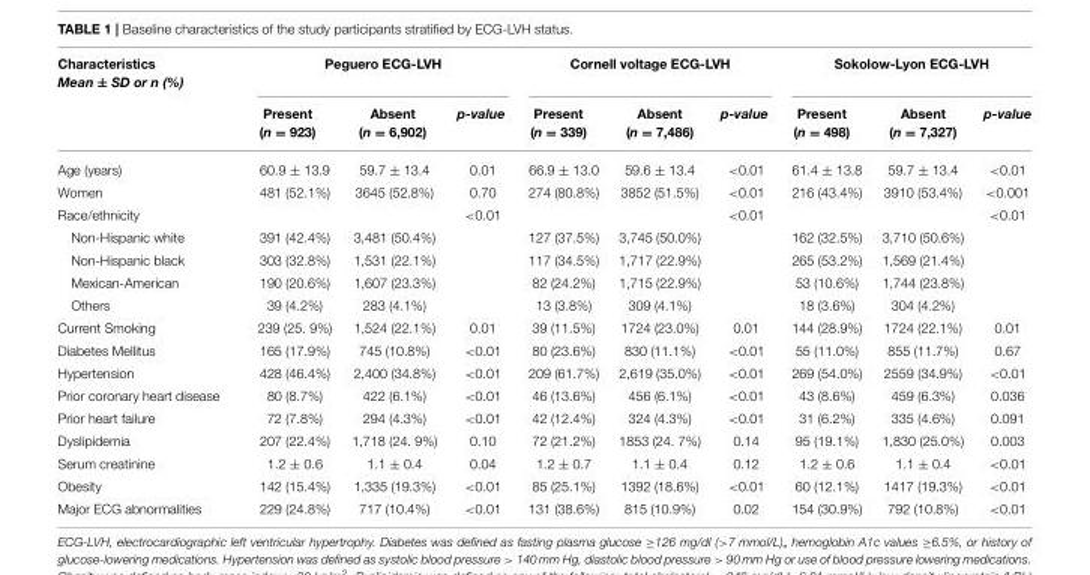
<table><thead><tr><td rowspan="2">Characteristics Mean ± SD or n (%)</td><td colspan="3">Peguero ECG-LVH</td><td colspan="3">Cornell voltage ECG-LVH</td><td colspan="3">Sokolow-Lyon ECG-LVH</td></tr><tr><td>Present (n = 923)</td><td>Absent (n = 6,902)</td><td>p-value</td><td>Present (n = 339)</td><td>Absent (n = 7,486)</td><td>p-value</td><td>Present (n = 498)</td><td>Absent (n = 7,327)</td><td>p-value</td></tr></thead><tbody><tr><td>Age (years)</td><td>60.9 ± 13.9</td><td>59.7 ± 13.4</td><td>0.01</td><td>66.9 ± 13.0</td><td>59.6 ± 13.4</td><td>&lt;0.01</td><td>61.4 ± 13.8</td><td>59.7 ± 13.4</td><td>&lt;0.01</td></tr><tr><td>Women</td><td>481 (52.1%)</td><td>3645 (52.8%)</td><td>0.70</td><td>274 (80.8%)</td><td>3852 (51.5%)</td><td>&lt;0.01</td><td>216 (43.4%)</td><td>3910 (53.4%)</td><td>&lt;0.001</td></tr><tr><td>Race/ethnicity</td><td></td><td></td><td>&lt;0.01</td><td></td><td></td><td>&lt;0.01</td><td></td><td></td><td>&lt;0.01</td></tr><tr><td>Non-Hispanic white</td><td>391 (42.4%)</td><td>3,481 (50.4%)</td><td></td><td>127 (37.5%)</td><td>3,745 (50.0%)</td><td></td><td>162 (32.5%)</td><td>3,710 (50.6%)</td><td></td></tr><tr><td>Non-Hispanic black</td><td>303 (32.8%)</td><td>1,531 (22.1%)</td><td></td><td>117 (34.5%)</td><td>1,717 (22.9%)</td><td></td><td>265 (53.2%)</td><td>1,569 (21.4%)</td><td></td></tr><tr><td>Mexican-American</td><td>190 (20.6%)</td><td>1,607 (23.3%)</td><td></td><td>82 (24.2%)</td><td>1,715 (22.9%)</td><td></td><td>53 (10.6%)</td><td>1,744 (23.8%)</td><td></td></tr><tr><td>Others</td><td>39 (4.2%)</td><td>283 (4.1%)</td><td></td><td>13 (3.8%)</td><td>309 (4.1%)</td><td></td><td>18 (3.6%)</td><td>304 (4.2%)</td><td></td></tr><tr><td>Current Smoking</td><td>239 (25. 9%)</td><td>1,524 (22.1%)</td><td>0.01</td><td>39 (11.5%)</td><td>1724 (23.0%)</td><td>0.01</td><td>144 (28.9%)</td><td>1724 (22.1%)</td><td>0.01</td></tr><tr><td>Diabetes Mellitus</td><td>165 (17.9%)</td><td>745 (10.8%)</td><td>&lt;0.01</td><td>80 (23.6%)</td><td>830 (11.1%)</td><td>&lt;0.01</td><td>55 (11.0%)</td><td>855 (11.7%)</td><td>0.67</td></tr><tr><td>Hypertension</td><td>428 (46.4%)</td><td>2,400 (34.8%)</td><td>&lt;0.01</td><td>209 (61.7%)</td><td>2,619 (35.0%)</td><td>&lt;0.01</td><td>269 (54.0%)</td><td>2559 (34.9%)</td><td>&lt;0.01</td></tr><tr><td>Prior coronary heart disease</td><td>80 (8.7%)</td><td>422 (6.1%)</td><td>&lt;0.01</td><td>46 (13.6%)</td><td>456 (6.1%)</td><td>&lt;0.01</td><td>43 (8.6%)</td><td>459 (6.3%)</td><td>0.036</td></tr><tr><td>Prior heart failure</td><td>72 (7.8%)</td><td>294 (4.3%)</td><td>&lt;0.01</td><td>42 (12.4%)</td><td>324 (4.3%)</td><td>&lt;0.01</td><td>31 (6.2%)</td><td>335 (4.6%)</td><td>0.091</td></tr><tr><td>Dyslipidemia</td><td>207 (22.4%)</td><td>1,718 (24. 9%)</td><td>0.10</td><td>72 (21.2%)</td><td>1853 (24. 7%)</td><td>0.14</td><td>95 (19.1%)</td><td>1,830 (25.0%)</td><td>0.003</td></tr><tr><td>Serum creatinine</td><td>1.2 ± 0.6</td><td>1.1 ± 0.4</td><td>0.04</td><td>1.2 ± 0.7</td><td>1.1 ± 0.4</td><td>0.12</td><td>1.2 ± 0.6</td><td>1.1 ± 0.4</td><td>&lt;0.01</td></tr><tr><td>Obesity</td><td>142 (15.4%)</td><td>1,335 (19.3%)</td><td>&lt;0.01</td><td>85 (25.1%)</td><td>1392 (18.6%)</td><td>&lt;0.01</td><td>60 (12.1%)</td><td>1417 (19.3%)</td><td>&lt;0.01</td></tr><tr><td>Major ECG abnormalities</td><td>229 (24.8%)</td><td>717 (10.4%)</td><td>&lt;0.01</td><td>131 (38.6%)</td><td>815 (10.9%)</td><td>0.02</td><td>154 (30.9%)</td><td>792 (10.8%)</td><td>&lt;0.01</td></tr></tbody></table>